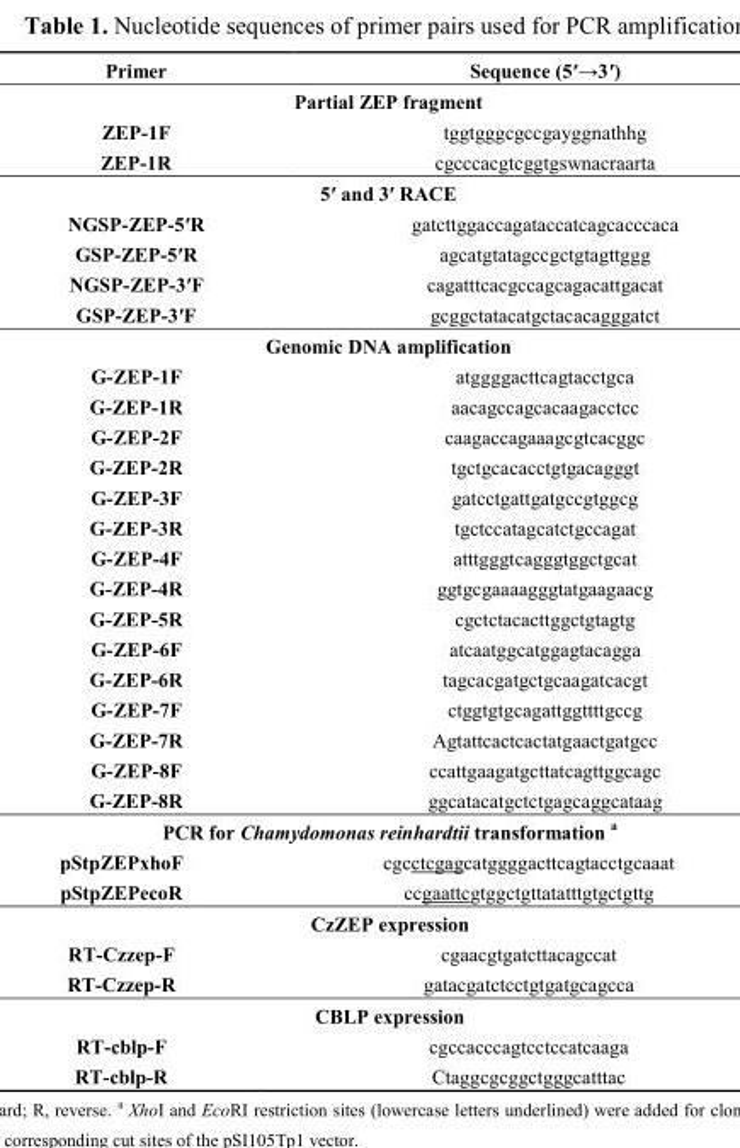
<table><thead><tr><td>Primer</td><td>Sequence (5′→3′)</td></tr></thead><tbody><tr><td colspan="2">Partial ZEP fragment</td></tr><tr><td>ZEP-1F</td><td>tggtgggcgccgayggnathhg</td></tr><tr><td>ZEP-1R</td><td>cgcccacgtcggtgswnacraarta</td></tr><tr><td colspan="2">5′ and 3′ RACE</td></tr><tr><td>NGSP-ZEP-5′R</td><td>gatcttggaccagataccatcagcacccaca</td></tr><tr><td>GSP-ZEP-5′R</td><td>agcatgtatagccgctgtagttggg</td></tr><tr><td>NGSP-ZEP-3′F</td><td>cagatttcacgccagcagacattgacat</td></tr><tr><td>GSP-ZEP-3′F</td><td>gcggctatacatgctacacagggatct</td></tr><tr><td colspan="2">Genomic DNA amplification</td></tr><tr><td>G-ZEP-1F</td><td>atggggacttcagtacctgca</td></tr><tr><td>G-ZEP-1R</td><td>aacagccagcacaagacctcc</td></tr><tr><td>G-ZEP-2F</td><td>caagaccagaaagcgtcacggc</td></tr><tr><td>G-ZEP-2R</td><td>tgctgcacacctgtgacagggt</td></tr><tr><td>G-ZEP-3F</td><td>gatcctgattgatgccgtggcg</td></tr><tr><td>G-ZEP-3R</td><td>tgctccatagcatctgccagat</td></tr><tr><td>G-ZEP-4F</td><td>atttgggtcagggtggctgcat</td></tr><tr><td>G-ZEP-4R</td><td>ggtgcgaaaagggtatgaagaacg</td></tr><tr><td>G-ZEP-5R</td><td>cgctctacacttggctgtagtg</td></tr><tr><td>G-ZEP-6F</td><td>atcaatggcatggagtacagga</td></tr><tr><td>G-ZEP-6R</td><td>tagcacgatgctgcaagatcacgt</td></tr><tr><td>G-ZEP-7F</td><td>ctggtgtgcagattggttttgccg</td></tr><tr><td>G-ZEP-7R</td><td>Agtattcactcactatgaactgatgcc</td></tr><tr><td>G-ZEP-8F</td><td>ccattgaagatgcttatcagttggcagc</td></tr><tr><td>G-ZEP-8R</td><td>ggcatacatgctctgagcaggcataag</td></tr><tr><td colspan="2">PCR for Chamydomonas reinhardtii transformation <sup>a</sup></td></tr><tr><td>pStpZEPxhoF</td><td>cgcctcgagcatggggacttcagtacctgcaaat</td></tr><tr><td>pStpZEPecoR</td><td>ccgaattcgtggctgttatatttgtgctgttg</td></tr><tr><td colspan="2">CzZEP expression</td></tr><tr><td>RT-Czzep-F</td><td>cgaacgtgatcttacagccat</td></tr><tr><td>RT-Czzep-R</td><td>gatacgatctcctgtgatgcagcca</td></tr><tr><td colspan="2">CBLP expression</td></tr><tr><td>RT-cblp-F</td><td>cgccacccagtcctccatcaaga</td></tr><tr><td>RT-cblp-R</td><td>Ctaggcgcggctgggcatttac</td></tr></tbody></table>